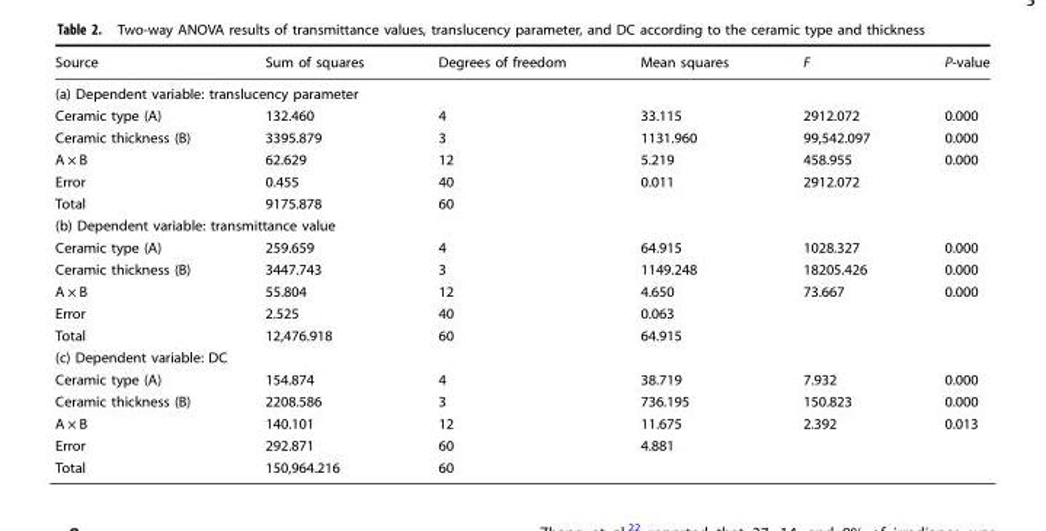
<table><thead><tr><td>Source</td><td>Sum of squares</td><td>Degrees of freedom</td><td>Mean squares</td><td>F</td><td>P-value</td></tr></thead><tbody><tr><td colspan="6">(a) Dependent variable: translucency parameter</td></tr><tr><td>Ceramic type (A)</td><td>132.460</td><td>4</td><td>33.115</td><td>2912.072</td><td>0.000</td></tr><tr><td>Ceramic thickness (B)</td><td>3395.879</td><td>3</td><td>1131.960</td><td>99,542.097</td><td>0.000</td></tr><tr><td>A × B</td><td>62.629</td><td>12</td><td>5.219</td><td>458.955</td><td>0.000</td></tr><tr><td>Error</td><td>0.455</td><td>40</td><td>0.011</td><td>2912.072</td><td></td></tr><tr><td>Total</td><td>9175.878</td><td>60</td><td></td><td></td><td></td></tr><tr><td colspan="6">(b) Dependent variable: transmittance value</td></tr><tr><td>Ceramic type (A)</td><td>259.659</td><td>4</td><td>64.915</td><td>1028.327</td><td>0.000</td></tr><tr><td>Ceramic thickness (B)</td><td>3447.743</td><td>3</td><td>1149.248</td><td>18205.426</td><td>0.000</td></tr><tr><td>A × B</td><td>55.804</td><td>12</td><td>4.650</td><td>73.667</td><td>0.000</td></tr><tr><td>Error</td><td>2.525</td><td>40</td><td>0.063</td><td></td><td></td></tr><tr><td>Total</td><td>12,476.918</td><td>60</td><td>64.915</td><td></td><td></td></tr><tr><td colspan="6">(c) Dependent variable: DC</td></tr><tr><td>Ceramic type (A)</td><td>154.874</td><td>4</td><td>38.719</td><td>7.932</td><td>0.000</td></tr><tr><td>Ceramic thickness (B)</td><td>2208.586</td><td>3</td><td>736.195</td><td>150.823</td><td>0.000</td></tr><tr><td>A × B</td><td>140.101</td><td>12</td><td>11.675</td><td>2.392</td><td>0.013</td></tr><tr><td>Error</td><td>292.871</td><td>60</td><td>4.881</td><td></td><td></td></tr><tr><td>Total</td><td>150,964.216</td><td>60</td><td></td><td></td><td></td></tr></tbody></table>